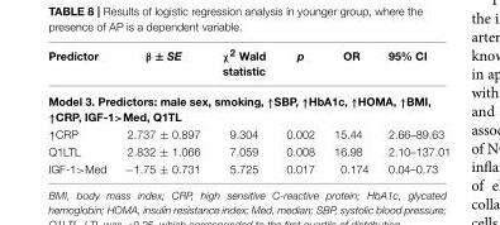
<table><thead><tr><td>Predictor</td><td>β ± SE</td><td>χ<sup>2</sup> Wald statistic</td><td>p</td><td>OR</td><td>95% CI</td></tr></thead><tbody><tr><td colspan="6">Model 3. Predictors: male sex, smoking, ↑SBP, ↑HbA1c, ↑HOMA, ↑BMI, ↑CRP, IGF-1&gt;Med, Q1TL</td></tr><tr><td>↑CRP</td><td>2.737 ± 0.897</td><td>9.304</td><td>0.002</td><td>15.44</td><td>2.66–89.63</td></tr><tr><td>Q1LTL</td><td>2.832 ± 1.066</td><td>7.059</td><td>0.008</td><td>16.98</td><td>2.10–137.01</td></tr><tr><td>IGF-1&gt;Med</td><td>−1.75 ± 0.731</td><td>5.725</td><td>0.017</td><td>0.174</td><td>0.04–0.73</td></tr></tbody></table>